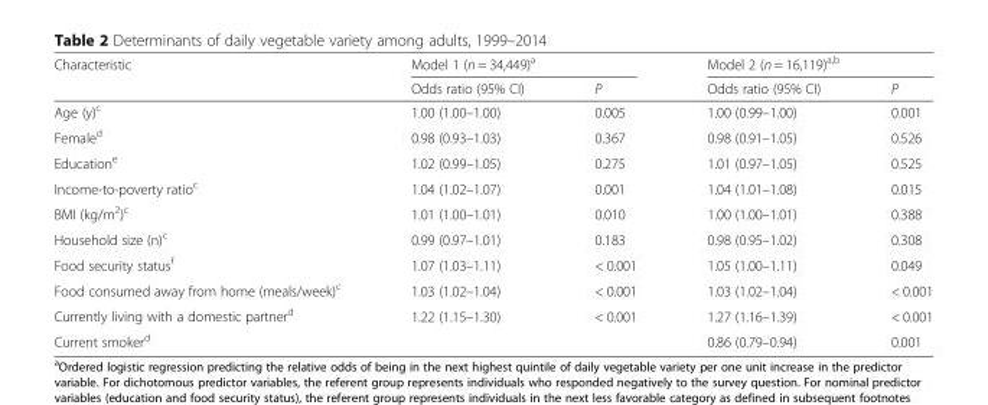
<table><thead><tr><td rowspan="2">Characteristic</td><td colspan="2">Model 1 (n = 34,449)<sup>a</sup></td><td colspan="2">Model 2 (n = 16,119)<sup>a,b</sup></td></tr><tr><td>Odds ratio (95% CI)</td><td>P</td><td>Odds ratio (95% CI)</td><td>P</td></tr></thead><tbody><tr><td>Age (y)<sup>c</sup></td><td>1.00 (1.00–1.00)</td><td>0.005</td><td>1.00 (0.99–1.00)</td><td>0.001</td></tr><tr><td>Female<sup>d</sup></td><td>0.98 (0.93–1.03)</td><td>0.367</td><td>0.98 (0.91–1.05)</td><td>0.526</td></tr><tr><td>Education<sup>e</sup></td><td>1.02 (0.99–1.05)</td><td>0.275</td><td>1.01 (0.97–1.05)</td><td>0.525</td></tr><tr><td>Income-to-poverty ratio<sup>c</sup></td><td>1.04 (1.02–1.07)</td><td>0.001</td><td>1.04 (1.01–1.08)</td><td>0.015</td></tr><tr><td>BMI (kg/m<sup>2</sup>)<sup>c</sup></td><td>1.01 (1.00–1.01)</td><td>0.010</td><td>1.00 (1.00–1.01)</td><td>0.388</td></tr><tr><td>Household size (n)<sup>c</sup></td><td>0.99 (0.97–1.01)</td><td>0.183</td><td>0.98 (0.95–1.02)</td><td>0.308</td></tr><tr><td>Food security status<sup>f</sup></td><td>1.07 (1.03–1.11)</td><td>&lt; 0.001</td><td>1.05 (1.00–1.11)</td><td>0.049</td></tr><tr><td>Food consumed away from home (meals/week)<sup>c</sup></td><td>1.03 (1.02–1.04)</td><td>&lt; 0.001</td><td>1.03 (1.02–1.04)</td><td>&lt; 0.001</td></tr><tr><td>Currently living with a domestic partner<sup>d</sup></td><td>1.22 (1.15–1.30)</td><td>&lt; 0.001</td><td>1.27 (1.16–1.39)</td><td>&lt; 0.001</td></tr><tr><td>Current smoker<sup>d</sup></td><td></td><td></td><td>0.86 (0.79–0.94)</td><td>0.001</td></tr></tbody></table>